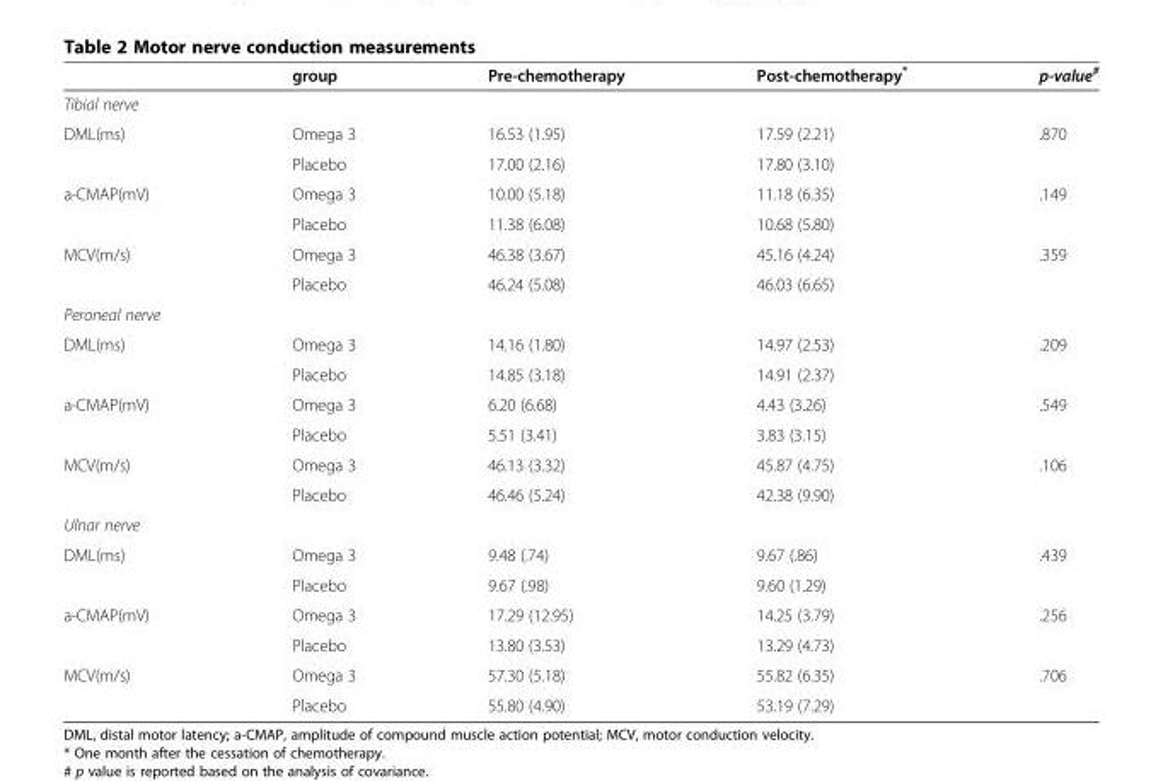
<table><thead><tr><td></td><td>group</td><td>Pre-chemotherapy</td><td>Post-chemotherapy*</td><td>p-value<sup>#</sup></td></tr></thead><tbody><tr><td colspan="5">Tibial nerve</td></tr><tr><td rowspan="2">DML(ms)</td><td>Omega 3</td><td>16.53 (1.95)</td><td>17.59 (2.21)</td><td>.870</td></tr><tr><td>Placebo</td><td>17.00 (2.16)</td><td>17.80 (3.10)</td><td></td></tr><tr><td rowspan="2">a-CMAP(mV)</td><td>Omega 3</td><td>10.00 (5.18)</td><td>11.18 (6.35)</td><td>.149</td></tr><tr><td>Placebo</td><td>11.38 (6.08)</td><td>10.68 (5.80)</td><td></td></tr><tr><td rowspan="2">MCV(m/s)</td><td>Omega 3</td><td>46.38 (3.67)</td><td>45.16 (4.24)</td><td>.359</td></tr><tr><td>Placebo</td><td>46.24 (5.08)</td><td>46.03 (6.65)</td><td></td></tr><tr><td colspan="5">Peroneal nerve</td></tr><tr><td rowspan="2">DML(ms)</td><td>Omega 3</td><td>14.16 (1.80)</td><td>14.97 (2.53)</td><td>.209</td></tr><tr><td>Placebo</td><td>14.85 (3.18)</td><td>14.91 (2.37)</td><td></td></tr><tr><td rowspan="2">a-CMAP(mV)</td><td>Omega 3</td><td>6.20 (6.68)</td><td>4.43 (3.26)</td><td>.549</td></tr><tr><td>Placebo</td><td>5.51 (3.41)</td><td>3.83 (3.15)</td><td></td></tr><tr><td rowspan="2">MCV(m/s)</td><td>Omega 3</td><td>46.13 (3.32)</td><td>45.87 (4.75)</td><td>.106</td></tr><tr><td>Placebo</td><td>46.46 (5.24)</td><td>42.38 (9.90)</td><td></td></tr><tr><td colspan="5">Ulnar nerve</td></tr><tr><td rowspan="2">DML(ms)</td><td>Omega 3</td><td>9.48 (.74)</td><td>9.67 (.86)</td><td>.439</td></tr><tr><td>Placebo</td><td>9.67 (.98)</td><td>9.60 (1.29)</td><td></td></tr><tr><td rowspan="2">a-CMAP(mV)</td><td>Omega 3</td><td>17.29 (12.95)</td><td>14.25 (3.79)</td><td>.256</td></tr><tr><td>Placebo</td><td>13.80 (3.53)</td><td>13.29 (4.73)</td><td></td></tr><tr><td rowspan="2">MCV(m/s)</td><td>Omega 3</td><td>57.30 (5.18)</td><td>55.82 (6.35)</td><td>.706</td></tr><tr><td>Placebo</td><td>55.80 (4.90)</td><td>53.19 (7.29)</td><td></td></tr></tbody></table>